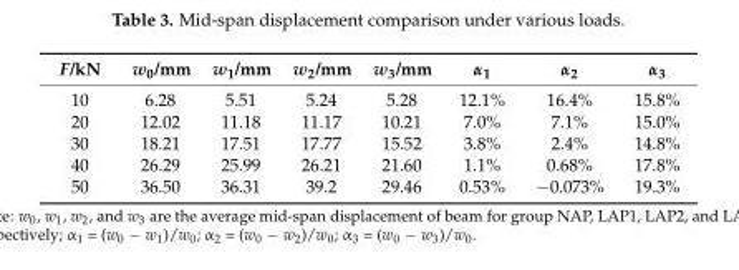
<table><thead><tr><td>F/kN</td><td>w<sub>0</sub>/mm</td><td>w<sub>1</sub>/mm</td><td>w<sub>2</sub>/mm</td><td>w<sub>3</sub>/mm</td><td>α<sub>1</sub></td><td>α<sub>2</sub></td><td>α<sub>3</sub></td></tr></thead><tbody><tr><td>10</td><td>6.28</td><td>5.51</td><td>5.24</td><td>5.28</td><td>12.1%</td><td>16.4%</td><td>15.8%</td></tr><tr><td>20</td><td>12.02</td><td>11.18</td><td>11.17</td><td>10.21</td><td>7.0%</td><td>7.1%</td><td>15.0%</td></tr><tr><td>30</td><td>18.21</td><td>17.51</td><td>17.77</td><td>15.52</td><td>3.8%</td><td>2.4%</td><td>14.8%</td></tr><tr><td>40</td><td>26.29</td><td>25.99</td><td>26.21</td><td>21.60</td><td>1.1%</td><td>0.68%</td><td>17.8%</td></tr><tr><td>50</td><td>36.50</td><td>36.31</td><td>39.2</td><td>29.46</td><td>0.53%</td><td>−0.073%</td><td>19.3%</td></tr></tbody></table>